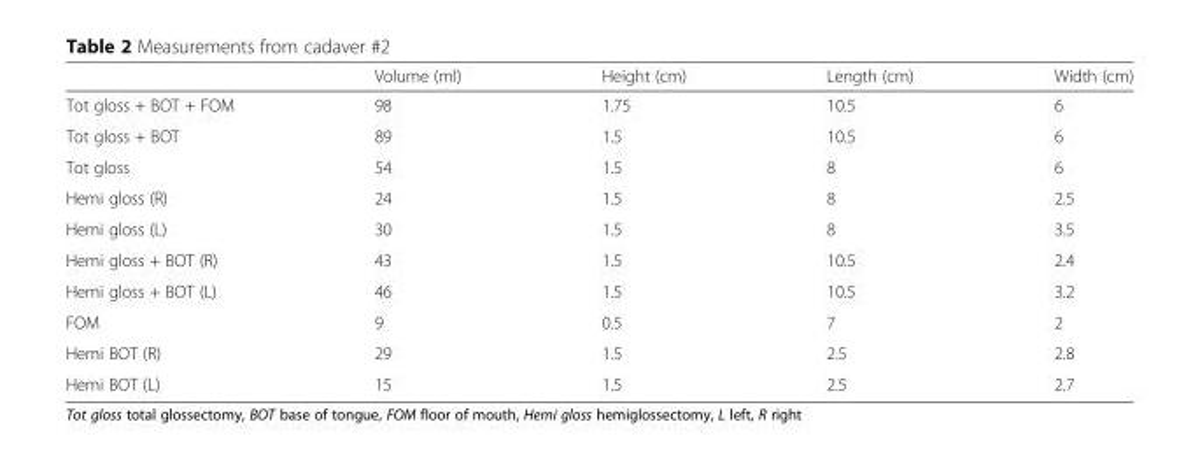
<table><thead><tr><td></td><td>Volume (ml)</td><td>Height (cm)</td><td>Length (cm)</td><td>Width (cm)</td></tr></thead><tbody><tr><td>Tot gloss + BOT + FOM</td><td>98</td><td>1.75</td><td>10.5</td><td>6</td></tr><tr><td>Tot gloss + BOT</td><td>89</td><td>1.5</td><td>10.5</td><td>6</td></tr><tr><td>Tot gloss</td><td>54</td><td>1.5</td><td>8</td><td>6</td></tr><tr><td>Hemi gloss (R)</td><td>24</td><td>1.5</td><td>8</td><td>2.5</td></tr><tr><td>Hemi gloss (L)</td><td>30</td><td>1.5</td><td>8</td><td>3.5</td></tr><tr><td>Hemi gloss + BOT (R)</td><td>43</td><td>1.5</td><td>10.5</td><td>2.4</td></tr><tr><td>Hemi gloss + BOT (L)</td><td>46</td><td>1.5</td><td>10.5</td><td>3.2</td></tr><tr><td>FOM</td><td>9</td><td>0.5</td><td>7</td><td>2</td></tr><tr><td>Hemi BOT (R)</td><td>29</td><td>1.5</td><td>2.5</td><td>2.8</td></tr><tr><td>Hemi BOT (L)</td><td>15</td><td>1.5</td><td>2.5</td><td>2.7</td></tr></tbody></table>